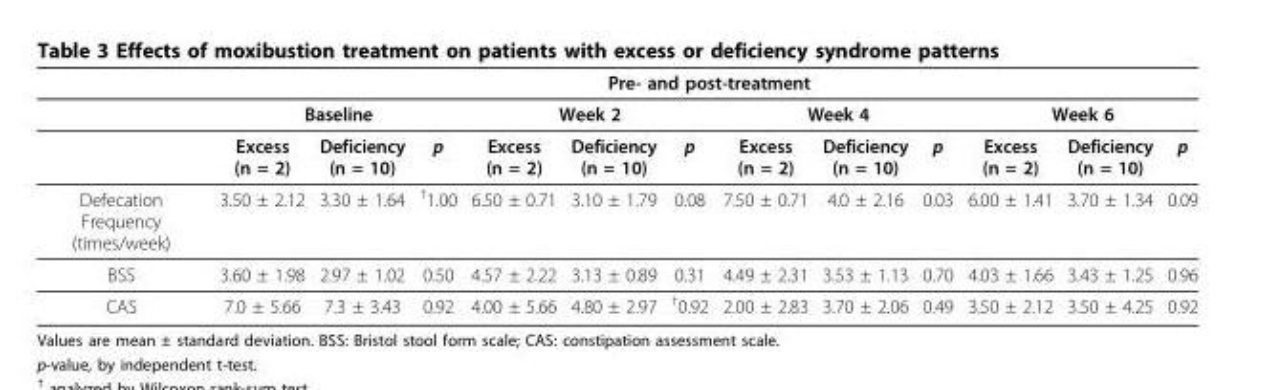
<table><thead><tr><td rowspan="3"></td><td colspan="12">Pre- and post-treatment</td></tr><tr><td colspan="3">Baseline</td><td colspan="3">Week 2</td><td colspan="3">Week 4</td><td colspan="3">Week 6</td></tr><tr><td>Excess (n = 2)</td><td>Deficiency (n = 10)</td><td>p</td><td>Excess (n = 2)</td><td>Deficiency (n = 10)</td><td>p</td><td>Excess (n = 2)</td><td>Deficiency (n = 10)</td><td>p</td><td>Excess (n = 2)</td><td>Deficiency (n = 10)</td><td>p</td></tr></thead><tbody><tr><td>Defecation Frequency (times/week)</td><td>3.50 ± 2.12</td><td>3.30 ± 1.64</td><td><sup>†</sup>1.00</td><td>6.50 ± 0.71</td><td>3.10 ± 1.79</td><td>0.08</td><td>7.50 ± 0.71</td><td>4.0 ± 2.16</td><td>0.03</td><td>6.00 ± 1.41</td><td>3.70 ± 1.34</td><td>0.09</td></tr><tr><td>BSS</td><td>3.60 ± 1.98</td><td>2.97 ± 1.02</td><td>0.50</td><td>4.57 ± 2.22</td><td>3.13 ± 0.89</td><td>0.31</td><td>4.49 ± 2.31</td><td>3.53 ± 1.13</td><td>0.70</td><td>4.03 ± 1.66</td><td>3.43 ± 1.25</td><td>0.96</td></tr><tr><td>CAS</td><td>7.0 ± 5.66</td><td>7.3 ± 3.43</td><td>0.92</td><td>4.00 ± 5.66</td><td>4.80 ± 2.97</td><td><sup>†</sup>0.92</td><td>2.00 ± 2.83</td><td>3.70 ± 2.06</td><td>0.49</td><td>3.50 ± 2.12</td><td>3.50 ± 4.25</td><td>0.92</td></tr></tbody></table>